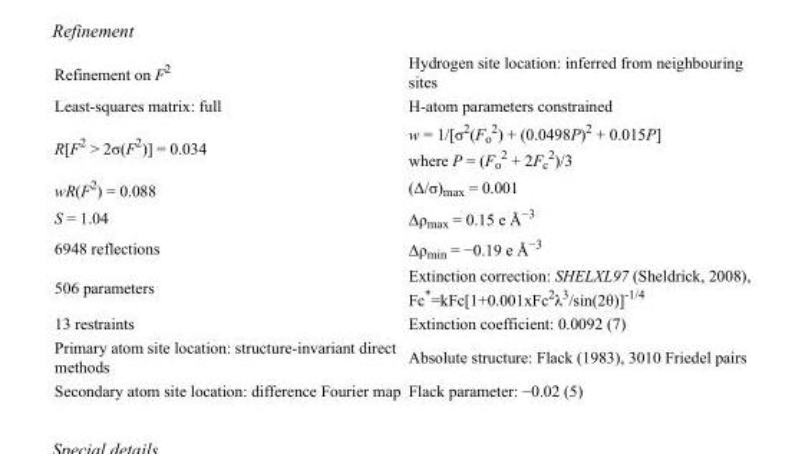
<table><tbody><tr><td>Refinement on F<sup>2</sup></td><td>Hydrogen site location: inferred from neighbouring sites</td></tr><tr><td>Least-squares matrix: full</td><td>H-atom parameters constrained</td></tr><tr><td>R[F<sup>2</sup> &gt; 2σ(F<sup>2</sup>)] = 0.034</td><td>w = 1/[σ<sup>2</sup>(F<sub>o</sub> <sup>2</sup>) + (0.0498P)<sup>2</sup> + 0.015P] where P = (F<sub>o</sub> <sup>2</sup> + 2F<sub>c</sub> <sup>2</sup>)/3</td></tr><tr><td>wR(F<sup>2</sup>) = 0.088</td><td>(Δ/σ)<sub>max</sub> = 0.001</td></tr><tr><td>S = 1.04</td><td>Δρ<sub>max</sub> = 0.15 e Å<sup>−3</sup></td></tr><tr><td>6948 reflections</td><td>Δρ<sub>min</sub> = −0.19 e Å<sup>−3</sup></td></tr><tr><td>506 parameters</td><td>Extinction correction: SHELXL97 (Sheldrick, 2008), Fc*=kFc[1+0.001xFc<sup>2</sup>λ<sup>3</sup>/sin(2θ)]<sup>-1/4</sup></td></tr><tr><td>13 restraints</td><td>Extinction coefficient: 0.0092 (7)</td></tr><tr><td>Primary atom site location: structure-invariant direct methods</td><td>Absolute structure: Flack (1983), 3010 Friedel pairs</td></tr><tr><td>Secondary atom site location: difference Fourier map</td><td>Flack parameter: −0.02 (5)</td></tr></tbody></table>